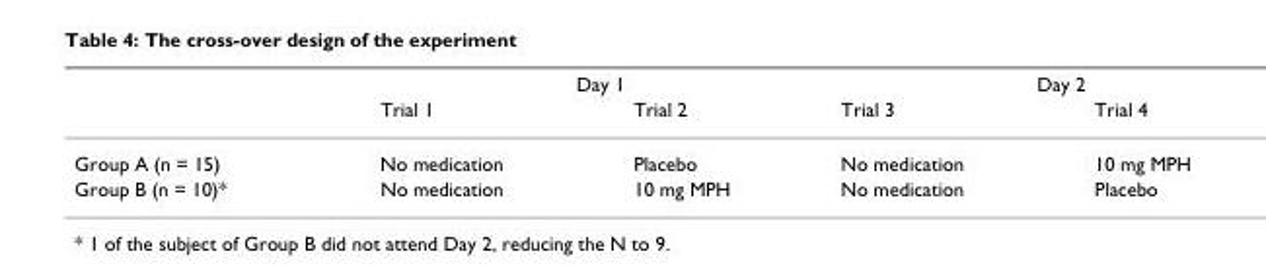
<table><thead><tr><td rowspan="2"></td><td colspan="2">Day 1</td><td colspan="2">Day 2</td></tr><tr><td>Trial 1</td><td>Trial 2</td><td>Trial 3</td><td>Trial 4</td></tr></thead><tbody><tr><td>Group A (n = 15)</td><td>No medication</td><td>Placebo</td><td>No medication</td><td>10 mg MPH</td></tr><tr><td>Group B (n = 10)*</td><td>No medication</td><td>10 mg MPH</td><td>No medication</td><td>Placebo</td></tr></tbody></table>